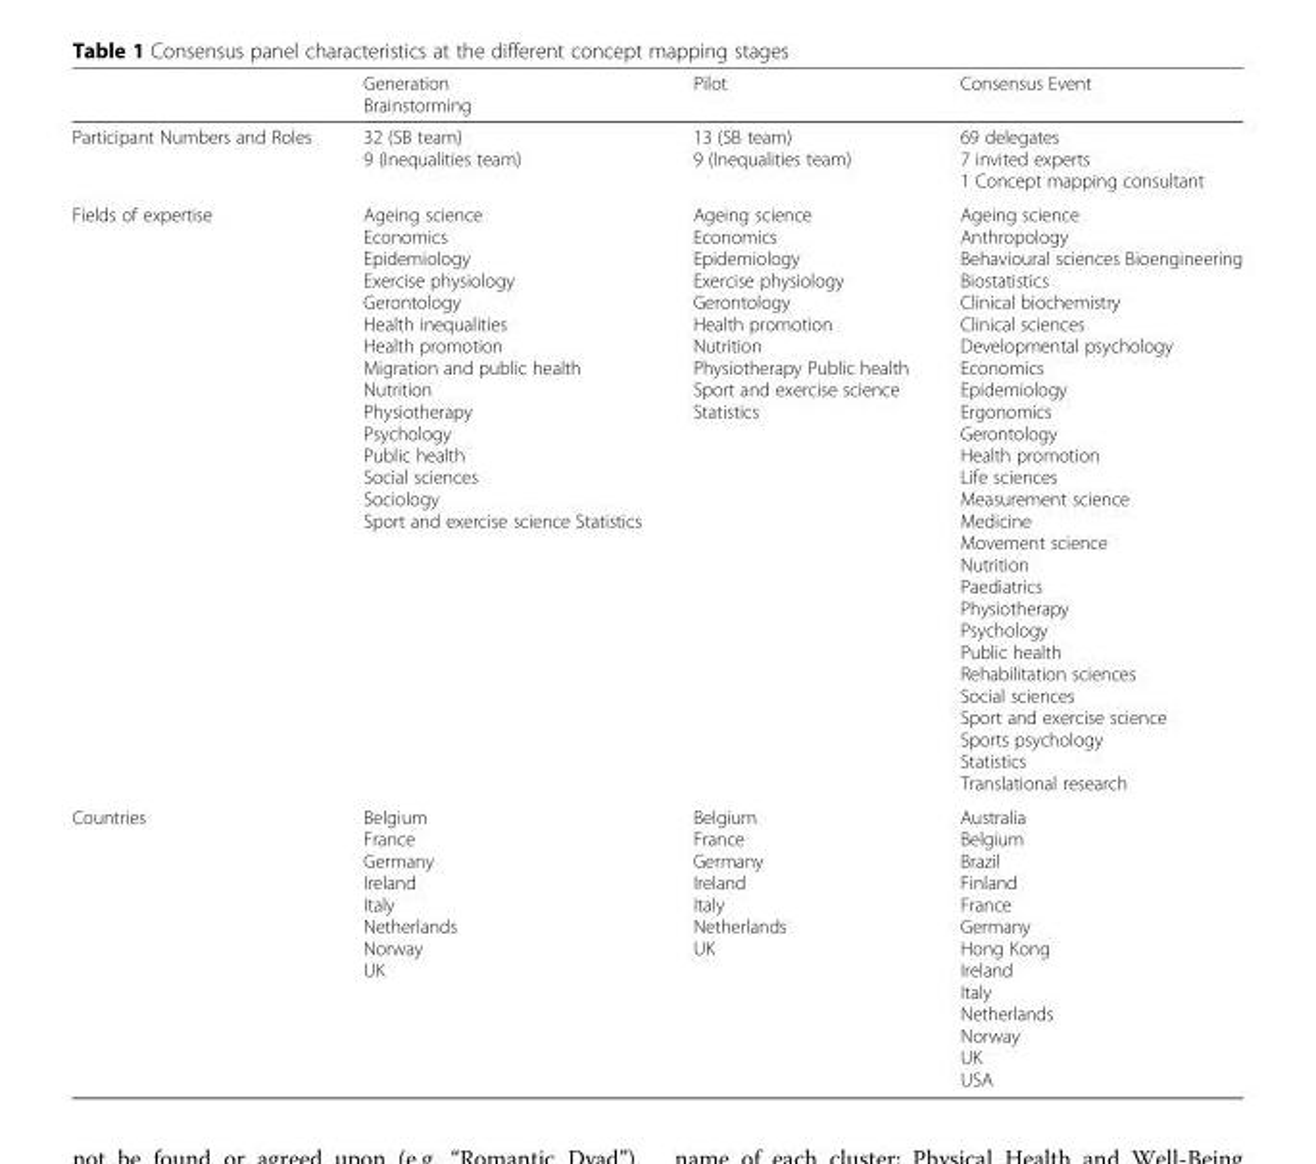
<table><thead><tr><td></td><td>Generation Brainstorming</td><td>Pilot</td><td>Consensus Event</td></tr></thead><tbody><tr><td>Participant Numbers and Roles</td><td>32 (SB team) 9 (Inequalities team)</td><td>13 (SB team) 9 (Inequalities team)</td><td>69 delegates 7 invited experts 1 Concept mapping consultant</td></tr><tr><td>Fields of expertise</td><td>Ageing science Economics Epidemiology Exercise physiology Gerontology Health inequalities Health promotion Migration and public health Nutrition Physiotherapy Psychology Public health Social sciences Sociology Sport and exercise science Statistics</td><td>Ageing science Economics Epidemiology Exercise physiology Gerontology Health promotion Nutrition Physiotherapy Public health Sport and exercise science Statistics</td><td>Ageing science Anthropology Behavioural sciences Bioengineering Biostatistics Clinical biochemistry Clinical sciences Developmental psychology Economics Epidemiology Ergonomics Gerontology Health promotion Life sciences Measurement science Medicine Movement science Nutrition Paediatrics Physiotherapy Psychology Public health Rehabilitation sciences Social sciences Sport and exercise science Sports psychology Statistics Translational research</td></tr><tr><td>Countries</td><td>Belgium France Germany Ireland Italy Netherlands Norway UK</td><td>Belgium France Germany Ireland Italy Netherlands UK</td><td>Australia Belgium Brazil Finland France Germany Hong Kong Ireland Italy Netherlands Norway UK USA</td></tr></tbody></table>